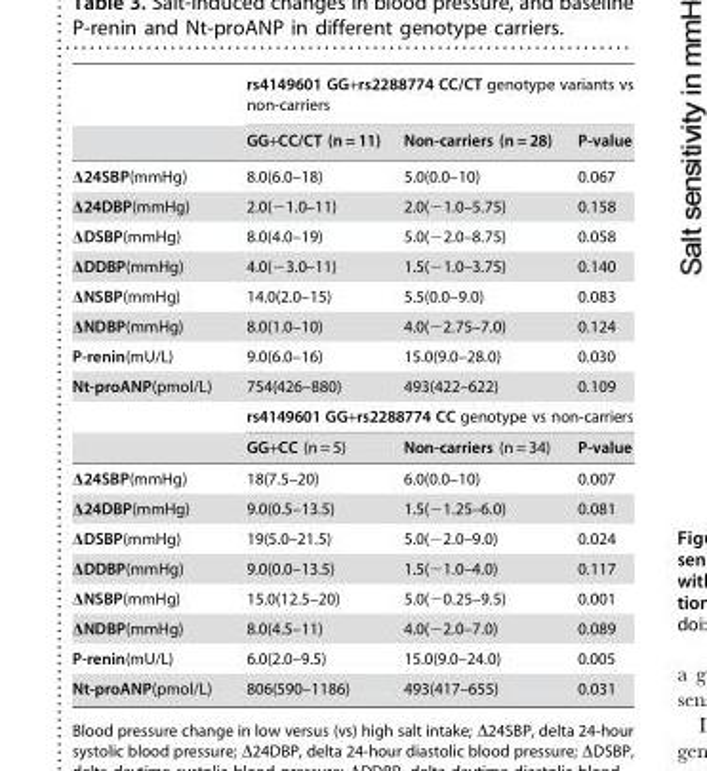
<table><thead><tr><td rowspan="2"></td><td colspan="3">rs4149601 GG+rs2288774 CC/CT genotype variants vs non-carriers</td></tr><tr><td>GG+CC/CT (n = 11)</td><td>Non-carriers (n = 28)</td><td>P-value</td></tr></thead><tbody><tr><td>Δ24SBP(mmHg)</td><td>8.0(6.0–18)</td><td>5.0(0.0–10)</td><td>0.067</td></tr><tr><td>Δ24DBP(mmHg)</td><td>2.0(−1.0–11)</td><td>2.0(−1.0–5.75)</td><td>0.158</td></tr><tr><td>ΔDSBP(mmHg)</td><td>8.0(4.0–19)</td><td>5.0(−2.0–8.75)</td><td>0.058</td></tr><tr><td>ΔDDBP(mmHg)</td><td>4.0(−3.0–11)</td><td>1.5(−1.0–3.75)</td><td>0.140</td></tr><tr><td>ΔNSBP(mmHg)</td><td>14.0(2.0–15)</td><td>5.5(0.0–9.0)</td><td>0.083</td></tr><tr><td>ΔNDBP(mmHg)</td><td>8.0(1.0–10)</td><td>4.0(−2.75–7.0)</td><td>0.124</td></tr><tr><td>P-renin(mU/L)</td><td>9.0(6.0–16)</td><td>15.0(9.0–28.0)</td><td>0.030</td></tr><tr><td rowspan="3">Nt-proANP(pmol/L)</td><td>754(426–880)</td><td>493(422–622)</td><td>0.109</td></tr><tr><td colspan="3">rs4149601 GG+rs2288774 CC genotype vs non-carriers</td></tr><tr><td>GG+CC (n = 5)</td><td>Non-carriers (n = 34)</td><td>P-value</td></tr><tr><td>Δ24SBP(mmHg)</td><td>18(7.5–20)</td><td>6.0(0.0–10)</td><td>0.007</td></tr><tr><td>Δ24DBP(mmHg)</td><td>9.0(0.5–13.5)</td><td>1.5(−1.25–6.0)</td><td>0.081</td></tr><tr><td>ΔDSBP(mmHg)</td><td>19(5.0–21.5)</td><td>5.0(−2.0–9.0)</td><td>0.024</td></tr><tr><td>ΔDDBP(mmHg)</td><td>9.0(0.0–13.5)</td><td>1.5(−1.0–4.0)</td><td>0.117</td></tr><tr><td>ΔNSBP(mmHg)</td><td>15.0(12.5–20)</td><td>5.0(−0.25–9.5)</td><td>0.001</td></tr><tr><td>ΔNDBP(mmHg)</td><td>8.0(4.5–11)</td><td>4.0(−2.0–7.0)</td><td>0.089</td></tr><tr><td>P-renin(mU/L)</td><td>6.0(2.0–9.5)</td><td>15.0(9.0–24.0)</td><td>0.005</td></tr><tr><td>Nt-proANP(pmol/L)</td><td>806(590–1186)</td><td>493(417–655)</td><td>0.031</td></tr></tbody></table>